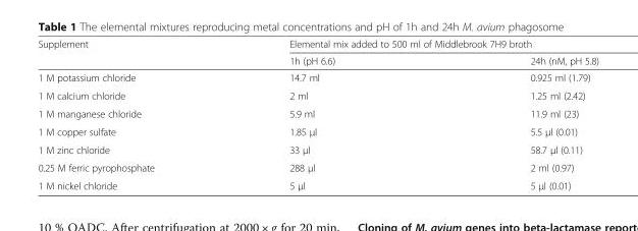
<table><thead><tr><td rowspan="2">Supplement</td><td colspan="2">Elemental mix added to 500 ml of Middlebrook 7H9 broth</td></tr><tr><td>1h (pH 6.6)</td><td>24h (nM, pH 5.8)</td></tr></thead><tbody><tr><td>1 M potassium chloride</td><td>14.7 ml</td><td>0.925 ml (1.79)</td></tr><tr><td>1 M calcium chloride</td><td>2 ml</td><td>1.25 ml (2.42)</td></tr><tr><td>1 M manganese chloride</td><td>5.9 ml</td><td>11.9 ml (23)</td></tr><tr><td>1 M copper sulfate</td><td>1.85 μl</td><td>5.5 μl (0.01)</td></tr><tr><td>1 M zinc chloride</td><td>33 μl</td><td>58.7 μl (0.11)</td></tr><tr><td>0.25 M ferric pyrophosphate</td><td>288 μl</td><td>2 ml (0.97)</td></tr><tr><td>1 M nickel chloride</td><td>5 μl</td><td>5 μl (0.01)</td></tr></tbody></table>